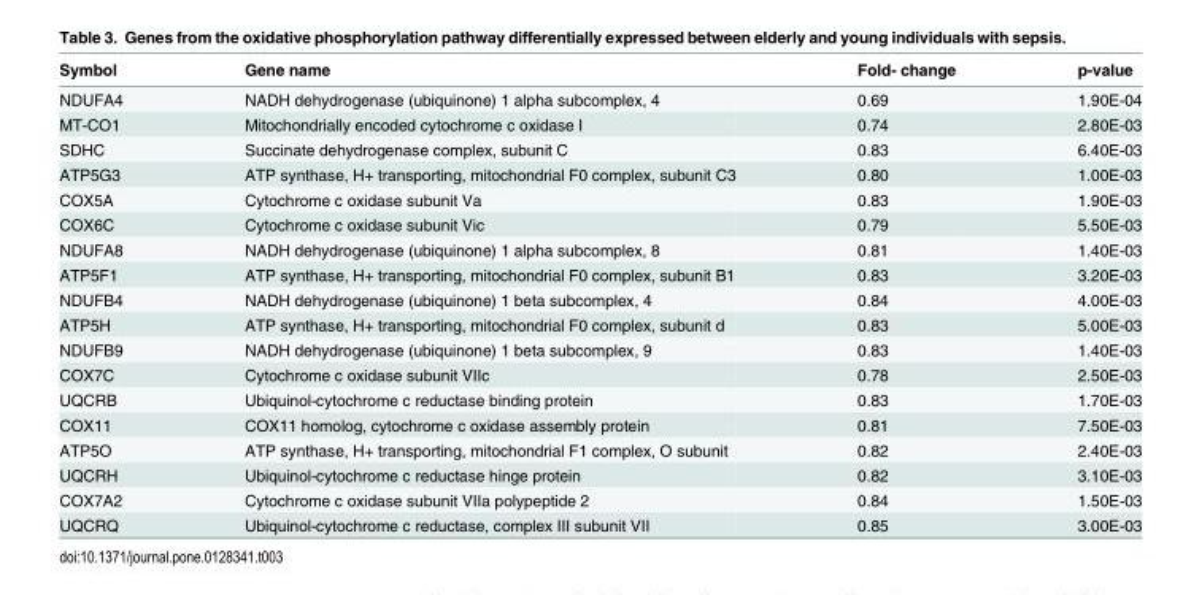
<table><thead><tr><td>Symbol</td><td>Gene name</td><td>Fold- change</td><td>p-value</td></tr></thead><tbody><tr><td>NDUFA4</td><td>NADH dehydrogenase (ubiquinone) 1 alpha subcomplex, 4</td><td>0.69</td><td>1.90E-04</td></tr><tr><td>MT-CO1</td><td>Mitochondrially encoded cytochrome c oxidase I</td><td>0.74</td><td>2.80E-03</td></tr><tr><td>SDHC</td><td>Succinate dehydrogenase complex, subunit C</td><td>0.83</td><td>6.40E-03</td></tr><tr><td>ATP5G3</td><td>ATP synthase, H+ transporting, mitochondrial F0 complex, subunit C3</td><td>0.80</td><td>1.00E-03</td></tr><tr><td>COX5A</td><td>Cytochrome c oxidase subunit Va</td><td>0.83</td><td>1.90E-03</td></tr><tr><td>COX6C</td><td>Cytochrome c oxidase subunit Vic</td><td>0.79</td><td>5.50E-03</td></tr><tr><td>NDUFA8</td><td>NADH dehydrogenase (ubiquinone) 1 alpha subcomplex, 8</td><td>0.81</td><td>1.40E-03</td></tr><tr><td>ATP5F1</td><td>ATP synthase, H+ transporting, mitochondrial F0 complex, subunit B1</td><td>0.83</td><td>3.20E-03</td></tr><tr><td>NDUFB4</td><td>NADH dehydrogenase (ubiquinone) 1 beta subcomplex, 4</td><td>0.84</td><td>4.00E-03</td></tr><tr><td>ATP5H</td><td>ATP synthase, H+ transporting, mitochondrial F0 complex, subunit d</td><td>0.83</td><td>5.00E-03</td></tr><tr><td>NDUFB9</td><td>NADH dehydrogenase (ubiquinone) 1 beta subcomplex, 9</td><td>0.83</td><td>1.40E-03</td></tr><tr><td>COX7C</td><td>Cytochrome c oxidase subunit VIIc</td><td>0.78</td><td>2.50E-03</td></tr><tr><td>UQCRB</td><td>Ubiquinol-cytochrome c reductase binding protein</td><td>0.83</td><td>1.70E-03</td></tr><tr><td>COX11</td><td>COX11 homolog, cytochrome c oxidase assembly protein</td><td>0.81</td><td>7.50E-03</td></tr><tr><td>ATP5O</td><td>ATP synthase, H+ transporting, mitochondrial F1 complex, O subunit</td><td>0.82</td><td>2.40E-03</td></tr><tr><td>UQCRH</td><td>Ubiquinol-cytochrome c reductase hinge protein</td><td>0.82</td><td>3.10E-03</td></tr><tr><td>COX7A2</td><td>Cytochrome c oxidase subunit VIIa polypeptide 2</td><td>0.84</td><td>1.50E-03</td></tr><tr><td>UQCRQ</td><td>Ubiquinol-cytochrome c reductase, complex III subunit VII</td><td>0.85</td><td>3.00E-03</td></tr></tbody></table>